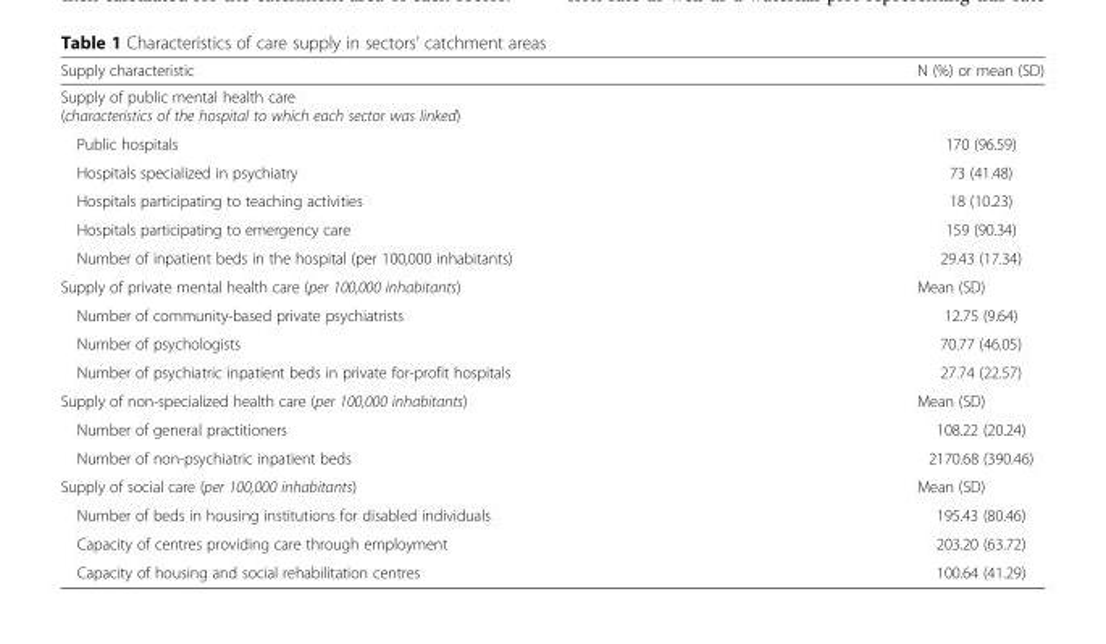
<table><thead><tr><td>Supply characteristic</td><td>N (%) or mean (SD)</td></tr></thead><tbody><tr><td colspan="2">Supply of public mental health care (characteristics of the hospital to which each sector was linked)</td></tr><tr><td>Public hospitals</td><td>170 (96.59)</td></tr><tr><td>Hospitals specialized in psychiatry</td><td>73 (41.48)</td></tr><tr><td>Hospitals participating to teaching activities</td><td>18 (10.23)</td></tr><tr><td>Hospitals participating to emergency care</td><td>159 (90.34)</td></tr><tr><td>Number of inpatient beds in the hospital (per 100,000 inhabitants)</td><td>29.43 (17.34)</td></tr><tr><td>Supply of private mental health care (per 100,000 inhabitants)</td><td>Mean (SD)</td></tr><tr><td>Number of community-based private psychiatrists</td><td>12.75 (9.64)</td></tr><tr><td>Number of psychologists</td><td>70.77 (46.05)</td></tr><tr><td>Number of psychiatric inpatient beds in private for-profit hospitals</td><td>27.74 (22.57)</td></tr><tr><td>Supply of non-specialized health care (per 100,000 inhabitants)</td><td>Mean (SD)</td></tr><tr><td>Number of general practitioners</td><td>108.22 (20.24)</td></tr><tr><td>Number of non-psychiatric inpatient beds</td><td>2170.68 (390.46)</td></tr><tr><td>Supply of social care (per 100,000 inhabitants)</td><td>Mean (SD)</td></tr><tr><td>Number of beds in housing institutions for disabled individuals</td><td>195.43 (80.46)</td></tr><tr><td>Capacity of centres providing care through employment</td><td>203.20 (63.72)</td></tr><tr><td>Capacity of housing and social rehabilitation centres</td><td>100.64 (41.29)</td></tr></tbody></table>